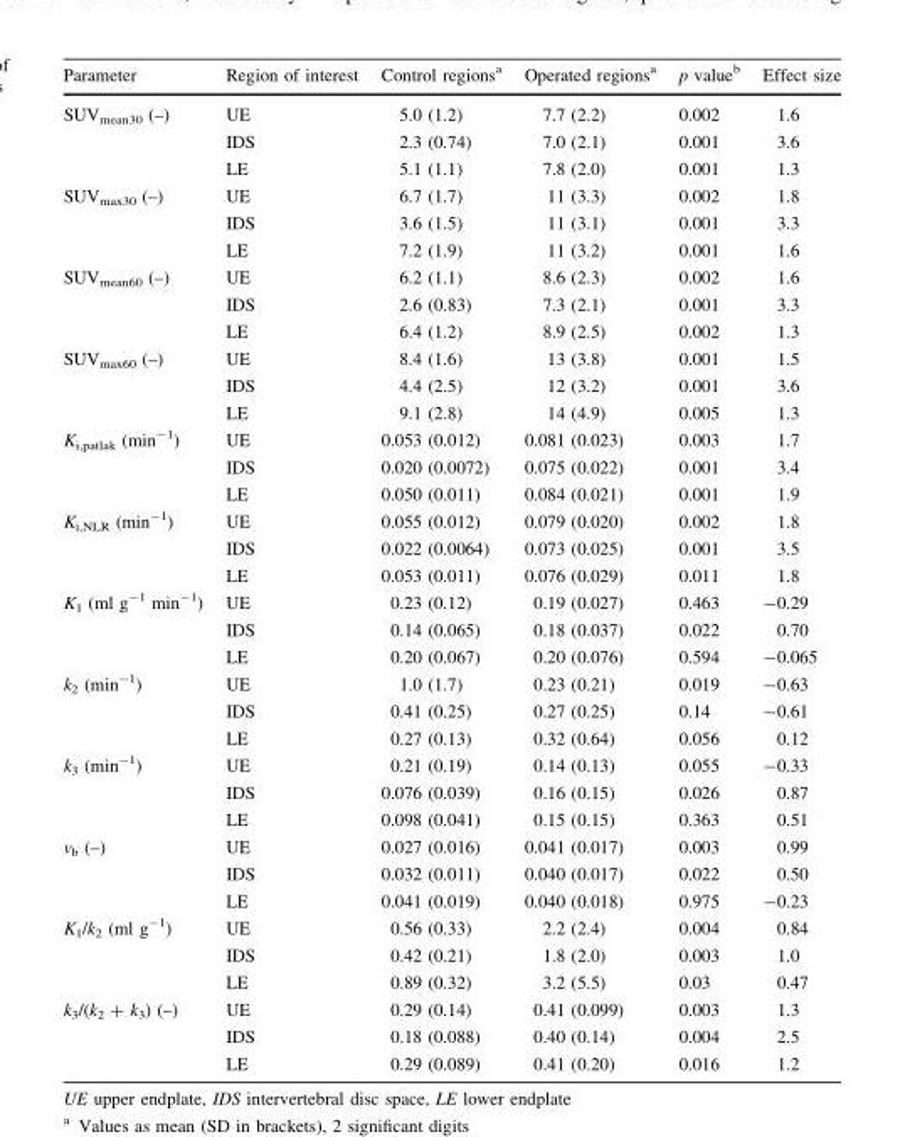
<table><thead><tr><td>Parameter</td><td>Region of interest</td><td>Control regions<sup>a</sup></td><td>Operated regions<sup>a</sup></td><td>p value<sup>b</sup></td><td>Effect size</td></tr></thead><tbody><tr><td rowspan="3">SUV<sub>mean30</sub> (–)</td><td>UE</td><td>5.0 (1.2)</td><td>7.7 (2.2)</td><td>0.002</td><td>1.6</td></tr><tr><td>IDS</td><td>2.3 (0.74)</td><td>7.0 (2.1)</td><td>0.001</td><td>3.6</td></tr><tr><td>LE</td><td>5.1 (1.1)</td><td>7.8 (2.0)</td><td>0.001</td><td>1.3</td></tr><tr><td rowspan="3">SUV<sub>max30</sub> (–)</td><td>UE</td><td>6.7 (1.7)</td><td>11 (3.3)</td><td>0.002</td><td>1.8</td></tr><tr><td>IDS</td><td>3.6 (1.5)</td><td>11 (3.1)</td><td>0.001</td><td>3.3</td></tr><tr><td>LE</td><td>7.2 (1.9)</td><td>11 (3.2)</td><td>0.001</td><td>1.6</td></tr><tr><td rowspan="3">SUV<sub>mean60</sub> (–)</td><td>UE</td><td>6.2 (1.1)</td><td>8.6 (2.3)</td><td>0.002</td><td>1.6</td></tr><tr><td>IDS</td><td>2.6 (0.83)</td><td>7.3 (2.1)</td><td>0.001</td><td>3.3</td></tr><tr><td>LE</td><td>6.4 (1.2)</td><td>8.9 (2.5)</td><td>0.002</td><td>1.3</td></tr><tr><td rowspan="3">SUV<sub>max60</sub> (–)</td><td>UE</td><td>8.4 (1.6)</td><td>13 (3.8)</td><td>0.001</td><td>1.5</td></tr><tr><td>IDS</td><td>4.4 (2.5)</td><td>12 (3.2)</td><td>0.001</td><td>3.6</td></tr><tr><td>LE</td><td>9.1 (2.8)</td><td>14 (4.9)</td><td>0.005</td><td>1.3</td></tr><tr><td rowspan="3">K<sub>i,patlak</sub> (min<sup>-1</sup>)</td><td>UE</td><td>0.053 (0.012)</td><td>0.081 (0.023)</td><td>0.003</td><td>1.7</td></tr><tr><td>IDS</td><td>0.020 (0.0072)</td><td>0.075 (0.022)</td><td>0.001</td><td>3.4</td></tr><tr><td>LE</td><td>0.050 (0.011)</td><td>0.084 (0.021)</td><td>0.001</td><td>1.9</td></tr><tr><td rowspan="3">K<sub>i,NLR</sub> (min<sup>-1</sup>)</td><td>UE</td><td>0.055 (0.012)</td><td>0.079 (0.020)</td><td>0.002</td><td>1.8</td></tr><tr><td>IDS</td><td>0.022 (0.0064)</td><td>0.073 (0.025)</td><td>0.001</td><td>3.5</td></tr><tr><td>LE</td><td>0.053 (0.011)</td><td>0.076 (0.029)</td><td>0.011</td><td>1.8</td></tr><tr><td rowspan="3">K<sub>1</sub> (ml g<sup>-1</sup> min<sup>-1</sup>)</td><td>UE</td><td>0.23 (0.12)</td><td>0.19 (0.027)</td><td>0.463</td><td>-0.29</td></tr><tr><td>IDS</td><td>0.14 (0.065)</td><td>0.18 (0.037)</td><td>0.022</td><td>0.70</td></tr><tr><td>LE</td><td>0.20 (0.067)</td><td>0.20 (0.076)</td><td>0.594</td><td>-0.065</td></tr><tr><td rowspan="3">k<sub>2</sub> (min<sup>-1</sup>)</td><td>UE</td><td>1.0 (1.7)</td><td>0.23 (0.21)</td><td>0.019</td><td>-0.63</td></tr><tr><td>IDS</td><td>0.41 (0.25)</td><td>0.27 (0.25)</td><td>0.14</td><td>-0.61</td></tr><tr><td>LE</td><td>0.27 (0.13)</td><td>0.32 (0.64)</td><td>0.056</td><td>0.12</td></tr><tr><td rowspan="3">k<sub>3</sub> (min<sup>-1</sup>)</td><td>UE</td><td>0.21 (0.19)</td><td>0.14 (0.13)</td><td>0.055</td><td>-0.33</td></tr><tr><td>IDS</td><td>0.076 (0.039)</td><td>0.16 (0.15)</td><td>0.026</td><td>0.87</td></tr><tr><td>LE</td><td>0.098 (0.041)</td><td>0.15 (0.15)</td><td>0.363</td><td>0.51</td></tr><tr><td rowspan="3">v<sub>b</sub> (–)</td><td>UE</td><td>0.027 (0.016)</td><td>0.041 (0.017)</td><td>0.003</td><td>0.99</td></tr><tr><td>IDS</td><td>0.032 (0.011)</td><td>0.040 (0.017)</td><td>0.022</td><td>0.50</td></tr><tr><td>LE</td><td>0.041 (0.019)</td><td>0.040 (0.018)</td><td>0.975</td><td>-0.23</td></tr><tr><td rowspan="3">K<sub>1</sub>/k<sub>2</sub> (ml g<sup>-1</sup>)</td><td>UE</td><td>0.56 (0.33)</td><td>2.2 (2.4)</td><td>0.004</td><td>0.84</td></tr><tr><td>IDS</td><td>0.42 (0.21)</td><td>1.8 (2.0)</td><td>0.003</td><td>1.0</td></tr><tr><td>LE</td><td>0.89 (0.32)</td><td>3.2 (5.5)</td><td>0.03</td><td>0.47</td></tr><tr><td rowspan="3">k<sub>3</sub>/(k<sub>2</sub> + k<sub>3</sub>) (–)</td><td>UE</td><td>0.29 (0.14)</td><td>0.41 (0.099)</td><td>0.003</td><td>1.3</td></tr><tr><td>IDS</td><td>0.18 (0.088)</td><td>0.40 (0.14)</td><td>0.004</td><td>2.5</td></tr><tr><td>LE</td><td>0.29 (0.089)</td><td>0.41 (0.20)</td><td>0.016</td><td>1.2</td></tr></tbody></table>